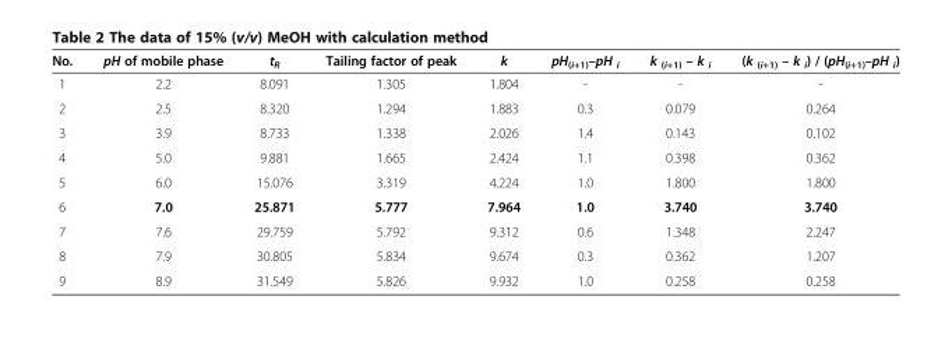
<table><thead><tr><td>No.</td><td>pH of mobile phase</td><td>t<sub>R</sub></td><td>Tailing factor of peak</td><td>k</td><td>pH<sub>(i+1)</sub>–pH <sub>i</sub></td><td>k <sub>(i+1)</sub> – k <sub>i</sub></td><td>(k <sub>(i+1)</sub> – k <sub>i</sub>) / (pH<sub>(i+1)</sub>–pH <sub>i</sub>)</td></tr></thead><tbody><tr><td>1</td><td>2.2</td><td>8.091</td><td>1.305</td><td>1.804</td><td>-</td><td>-</td><td>-</td></tr><tr><td>2</td><td>2.5</td><td>8.320</td><td>1.294</td><td>1.883</td><td>0.3</td><td>0.079</td><td>0.264</td></tr><tr><td>3</td><td>3.9</td><td>8.733</td><td>1.338</td><td>2.026</td><td>1.4</td><td>0.143</td><td>0.102</td></tr><tr><td>4</td><td>5.0</td><td>9.881</td><td>1.665</td><td>2.424</td><td>1.1</td><td>0.398</td><td>0.362</td></tr><tr><td>5</td><td>6.0</td><td>15.076</td><td>3.319</td><td>4.224</td><td>1.0</td><td>1.800</td><td>1.800</td></tr><tr><td>6</td><td>7.0</td><td>25.871</td><td>5.777</td><td>7.964</td><td>1.0</td><td>3.740</td><td>3.740</td></tr><tr><td>7</td><td>7.6</td><td>29.759</td><td>5.792</td><td>9.312</td><td>0.6</td><td>1.348</td><td>2.247</td></tr><tr><td>8</td><td>7.9</td><td>30.805</td><td>5.834</td><td>9.674</td><td>0.3</td><td>0.362</td><td>1.207</td></tr><tr><td>9</td><td>8.9</td><td>31.549</td><td>5.826</td><td>9.932</td><td>1.0</td><td>0.258</td><td>0.258</td></tr></tbody></table>